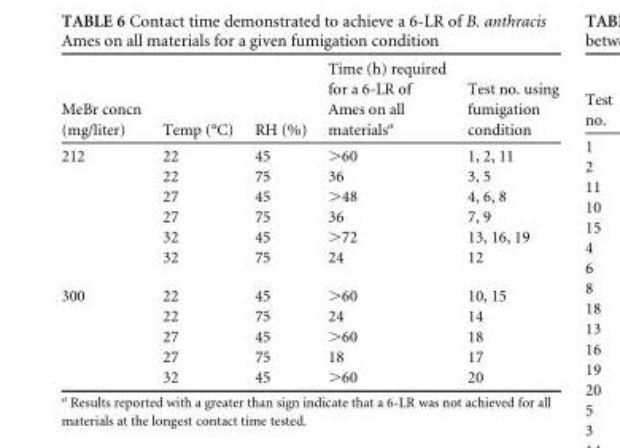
<table><thead><tr><td>MeBr concn (mg/liter)</td><td>Temp (°C)</td><td>RH (%)</td><td>Time (h) required for a 6-LR of Ames on all materials<sup>a</sup></td><td>Test no. using fumigation condition</td></tr></thead><tbody><tr><td rowspan="6">212</td><td>22</td><td>45</td><td>&gt;60</td><td>1, 2, 11</td></tr><tr><td>22</td><td>75</td><td>36</td><td>3, 5</td></tr><tr><td>27</td><td>45</td><td>&gt;48</td><td>4, 6, 8</td></tr><tr><td>27</td><td>75</td><td>36</td><td>7, 9</td></tr><tr><td>32</td><td>45</td><td>&gt;72</td><td>13, 16, 19</td></tr><tr><td>32</td><td>75</td><td>24</td><td>12</td></tr><tr><td rowspan="5">300</td><td>22</td><td>45</td><td>&gt;60</td><td>10, 15</td></tr><tr><td>22</td><td>75</td><td>24</td><td>14</td></tr><tr><td>27</td><td>45</td><td>&gt;60</td><td>18</td></tr><tr><td>27</td><td>75</td><td>18</td><td>17</td></tr><tr><td>32</td><td>45</td><td>&gt;60</td><td>20</td></tr></tbody></table>